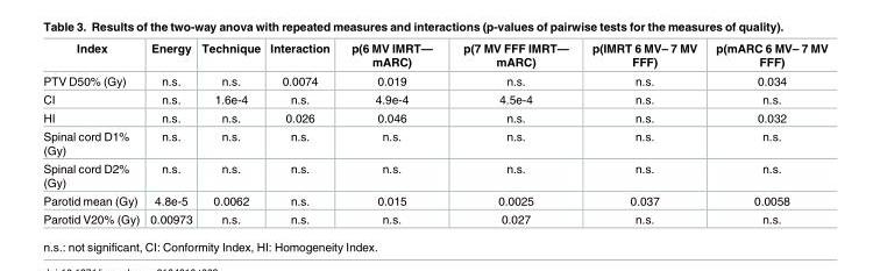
<table><thead><tr><td>Index</td><td>Energy</td><td>Technique</td><td>Interaction</td><td>p(6 MV IMRT— mARC)</td><td>p(7 MV FFF IMRT— mARC)</td><td>p(IMRT 6 MV– 7 MV FFF)</td><td>p(mARC 6 MV– 7 MV FFF)</td></tr></thead><tbody><tr><td>PTV D50% (Gy)</td><td>n.s.</td><td>n.s.</td><td>0.0074</td><td>0.019</td><td>n.s.</td><td>n.s.</td><td>0.034</td></tr><tr><td>CI</td><td>n.s.</td><td>1.6e-4</td><td>n.s.</td><td>4.9e-4</td><td>4.5e-4</td><td>n.s.</td><td>n.s.</td></tr><tr><td>HI</td><td>n.s.</td><td>n.s.</td><td>0.026</td><td>0.046</td><td>n.s.</td><td>n.s.</td><td>0.032</td></tr><tr><td>Spinal cord D1% (Gy)</td><td>n.s.</td><td>n.s.</td><td>n.s.</td><td>n.s.</td><td>n.s.</td><td>n.s.</td><td>n.s.</td></tr><tr><td>Spinal cord D2% (Gy)</td><td>n.s.</td><td>n.s.</td><td>n.s.</td><td>n.s.</td><td>n.s.</td><td>n.s.</td><td>n.s.</td></tr><tr><td>Parotid mean (Gy)</td><td>4.8e-5</td><td>0.0062</td><td>n.s.</td><td>0.015</td><td>0.0025</td><td>0.037</td><td>0.0058</td></tr><tr><td>Parotid V20% (Gy)</td><td>0.00973</td><td>n.s.</td><td>n.s.</td><td>n.s.</td><td>0.027</td><td>n.s.</td><td>n.s.</td></tr></tbody></table>